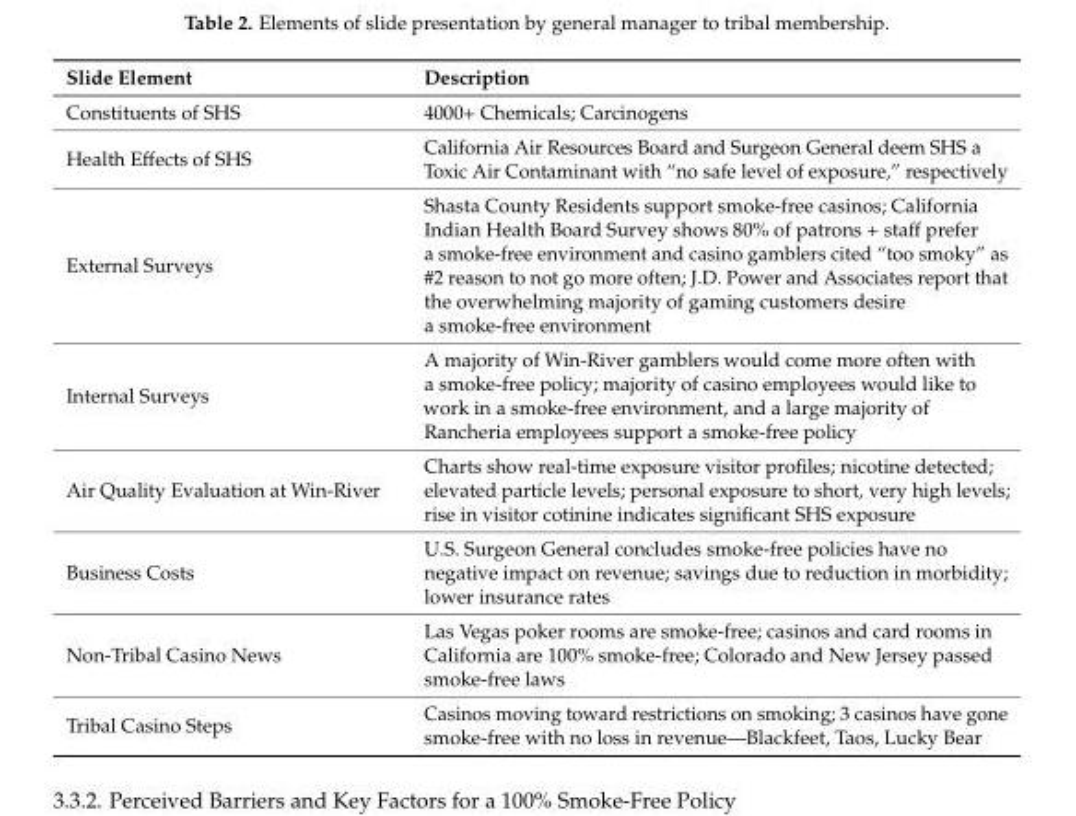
<table><thead><tr><td>Slide Element</td><td>Description</td></tr></thead><tbody><tr><td>Constituents of SHS</td><td>4000+ Chemicals; Carcinogens</td></tr><tr><td>Health Effects of SHS</td><td>California Air Resources Board and Surgeon General deem SHS a Toxic Air Contaminant with “no safe level of exposure,” respectively</td></tr><tr><td>External Surveys</td><td>Shasta County Residents support smoke-free casinos; California Indian Health Board Survey shows 80% of patrons + staff prefer a smoke-free environment and casino gamblers cited “too smoky” as #2 reason to not go more often; J.D. Power and Associates report that the overwhelming majority of gaming customers desire a smoke-free environment</td></tr><tr><td>Internal Surveys</td><td>A majority of Win-River gamblers would come more often with a smoke-free policy; majority of casino employees would like to work in a smoke-free environment, and a large majority of Rancheria employees support a smoke-free policy</td></tr><tr><td>Air Quality Evaluation at Win-River</td><td>Charts show real-time exposure visitor profiles; nicotine detected; elevated particle levels; personal exposure to short, very high levels; rise in visitor cotinine indicates significant SHS exposure</td></tr><tr><td>Business Costs</td><td>U.S. Surgeon General concludes smoke-free policies have no negative impact on revenue; savings due to reduction in morbidity; lower insurance rates</td></tr><tr><td>Non-Tribal Casino News</td><td>Las Vegas poker rooms are smoke-free; casinos and card rooms in California are 100% smoke-free; Colorado and New Jersey passed smoke-free laws</td></tr><tr><td>Tribal Casino Steps</td><td>Casinos moving toward restrictions on smoking; 3 casinos have gone smoke-free with no loss in revenue—Blackfeet, Taos, Lucky Bear</td></tr></tbody></table>